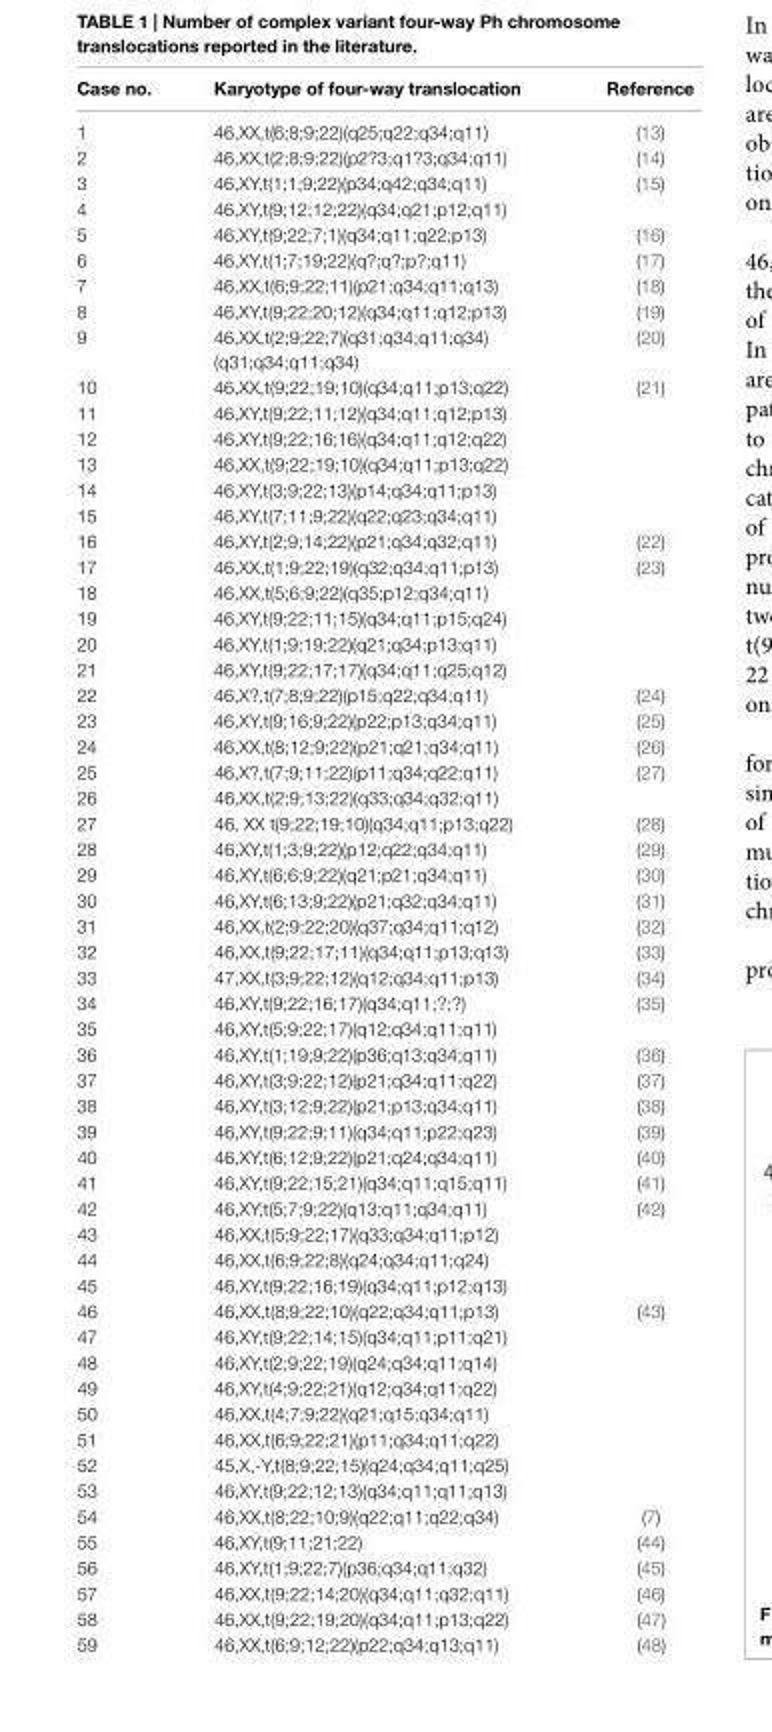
<table><thead><tr><td>Case no.</td><td>Karyotype of four-way translocation</td><td>Reference</td></tr></thead><tbody><tr><td>1</td><td>46,XX,t(6;8;9;22)(q25;q22;q34;q11)</td><td>(13)</td></tr><tr><td>2</td><td>46,XX,t(2;8;9;22)(p2?3;q1?3;q34;q11)</td><td>(14)</td></tr><tr><td>3</td><td>46,XY,t(1;1;9;22)(p34;q42;q34;q11)</td><td rowspan="2">(15)</td></tr><tr><td>4</td><td>46,XY,t(9;12;12;22)(q34;q21;p12;q11)</td></tr><tr><td>5</td><td>46,XY,t(9;22;7;1)(q34;q11;q22;p13)</td><td>(16)</td></tr><tr><td>6</td><td>46,XY,t(1;7;19;22)(q?;q?;p?;q11)</td><td>(17)</td></tr><tr><td>7</td><td>46,XX,t(6;9;22;11)(p21;q34;q11;q13)</td><td>(18)</td></tr><tr><td>8</td><td>46,XY,t(9;22;20;12)(q34;q11;q12;p13)</td><td>(19)</td></tr><tr><td>9</td><td>46,XX,t(2;9;22;7)(q31;q34;q11;q34) (q31;q34;q11;q34)</td><td>(20)</td></tr><tr><td>10</td><td>46,XX,t(9;22;19;10)(q34;q11;p13;q22)</td><td rowspan="6">(21)</td></tr><tr><td>11</td><td>46,XY,t(9;22;11;12)(q34;q11;q12;p13)</td></tr><tr><td>12</td><td>46,XY,t(9;22;16;16)(q34;q11;q12;q22)</td></tr><tr><td>13</td><td>46,XX,t(9;22;19;10)(q34;q11;p13;q22)</td></tr><tr><td>14</td><td>46,XY,t(3;9;22;13)(p14;q34;q11;p13)</td></tr><tr><td>15</td><td>46,XY,t(7;11;9;22)(q22;q23;q34;q11)</td></tr><tr><td>16</td><td>46,XY,t(2;9;14;22)(p21;q34;q32;q11)</td><td>(22)</td></tr><tr><td>17</td><td>46,XX,t(1;9;22;19)(q32;q34;q11;p13)</td><td rowspan="5">(23)</td></tr><tr><td>18</td><td>46,XX,t(5;6;9;22)(q35;p12;q34;q11)</td></tr><tr><td>19</td><td>46,XY,t(9;22;11;15)(q34;q11;p15;q24)</td></tr><tr><td>20</td><td>46,XY,t(1;9;19;22)(q21;q34;p13;q11)</td></tr><tr><td>21</td><td>46,XY,t(9;22;17;17)(q34;q11;q25;q12)</td></tr><tr><td>22</td><td>46,X?,t(7;8;9;22)(p15;q22;q34;q11)</td><td>(24)</td></tr><tr><td>23</td><td>46,XY,t(9;16;9;22)(p22;p13;q34;q11)</td><td>(25)</td></tr><tr><td>24</td><td>46,XX,t(8;12;9;22)(p21;q21;q34;q11)</td><td>(26)</td></tr><tr><td>25</td><td>46,X?,t(7;9;11;22)(p11;q34;q22;q11)</td><td rowspan="2">(27)</td></tr><tr><td>26</td><td>46,XX,t(2;9;13;22)(q33;q34;q32;q11)</td></tr><tr><td>27</td><td>46, XX t(9;22;19;10)(q34;q11;p13;q22)</td><td>(28)</td></tr><tr><td>28</td><td>46,XY,t(1;3;9;22)(p12;q22;q34;q11)</td><td>(29)</td></tr><tr><td>29</td><td>46,XY,t(6;6;9;22)(q21;p21;q34;q11)</td><td>(30)</td></tr><tr><td>30</td><td>46,XY,t(6;13;9;22)(p21;q32;q34;q11)</td><td>(31)</td></tr><tr><td>31</td><td>46,XX,t(2;9;22;20)(q37;q34;q11;q12)</td><td>(32)</td></tr><tr><td>32</td><td>46,XX,t(9;22;17;11)(q34;q11;p13;q13)</td><td>(33)</td></tr><tr><td>33</td><td>47,XX,t(3;9;22;12)(q12;q34;q11;p13)</td><td>(34)</td></tr><tr><td>34</td><td>46,XY,t(9;22;16;17)(q34;q11;?;?)</td><td rowspan="2">(35)</td></tr><tr><td>35</td><td>46,XY,t(5;9;22;17)(q12;q34;q11;q11)</td></tr><tr><td>36</td><td>46,XY,t(1;19;9;22)(p36;q13;q34;q11)</td><td>(36)</td></tr><tr><td>37</td><td>46,XY,t(3;9;22;12)(p21;q34;q11;q22)</td><td>(37)</td></tr><tr><td>38</td><td>46,XY,t(3;12;9;22)(p21;p13;q34;q11)</td><td>(38)</td></tr><tr><td>39</td><td>46,XY,t(9;22;9;11)(q34;q11;p22;q23)</td><td>(39)</td></tr><tr><td>40</td><td>46,XY,t(6;12;9;22)(p21;q24;q34;q11)</td><td>(40)</td></tr><tr><td>41</td><td>46,XY,t(9;22;15;21)(q34;q11;q15;q11)</td><td>(41)</td></tr><tr><td>42</td><td>46,XY,t(5;7;9;22)(q13;q11;q34;q11)</td><td rowspan="4">(42)</td></tr><tr><td>43</td><td>46,XX,t(5;9;22;17)(q33;q34;q11;p12)</td></tr><tr><td>44</td><td>46,XX,t(6;9;22;8)(q24;q34;q11;q24)</td></tr><tr><td>45</td><td>46,XY,t(9;22;16;19)(q34;q11;p12;q13)</td></tr><tr><td>46</td><td>46,XX,t(8;9;22;10)(q22;q34;q11;p13)</td><td rowspan="8">(43)</td></tr><tr><td>47</td><td>46,XY,t(9;22;14;15)(q34;q11;p11;q21)</td></tr><tr><td>48</td><td>46,XY,t(2;9;22;19)(q24;q34;q11;q14)</td></tr><tr><td>49</td><td>46,XY,t(4;9;22;21)(q12;q34;q11;q22)</td></tr><tr><td>50</td><td>46,XX,t(4;7;9;22)(q21;q15;q34;q11)</td></tr><tr><td>51</td><td>46,XX,t(6;9;22;21)(p11;q34;q11;q22)</td></tr><tr><td>52</td><td>45,X,-Y,t(8;9;22;15)(q24;q34;q11;q25)</td></tr><tr><td>53</td><td>46,XY,t(9;22;12;13)(q34;q11;q11;q13)</td></tr><tr><td>54</td><td>46,XX,t(8;22;10;9)(q22;q11;q22;q34)</td><td>(7)</td></tr><tr><td>55</td><td>46,XY,t(9;11;21;22)</td><td>(44)</td></tr><tr><td>56</td><td>46,XY,t(1;9;22;7)(p36;q34;q11;q32)</td><td>(45)</td></tr><tr><td>57</td><td>46,XX,t(9;22;14;20)(q34;q11;q32;q11)</td><td>(46)</td></tr><tr><td>58</td><td>46,XX,t(9;22;19;20)(q34;q11;p13;q22)</td><td>(47)</td></tr><tr><td>59</td><td>46,XX,t(6;9;12;22)(p22;q34;q13;q11)</td><td>(48)</td></tr></tbody></table>